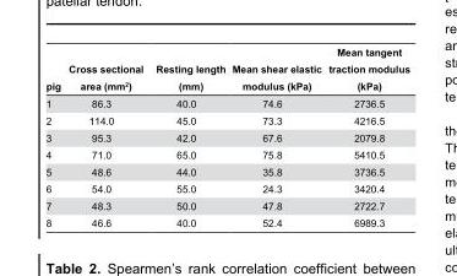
<table><thead><tr><td>pig</td><td>Cross sectional area (mm<sup>2</sup>)</td><td>Resting length (mm)</td><td>Mean shear elastic modulus (kPa)</td><td>Mean tangent traction modulus (kPa)</td></tr></thead><tbody><tr><td>1</td><td>86.3</td><td>40.0</td><td>74.6</td><td>2736.5</td></tr><tr><td>2</td><td>114.0</td><td>45.0</td><td>73.3</td><td>4216.5</td></tr><tr><td>3</td><td>95.3</td><td>42.0</td><td>67.6</td><td>2079.8</td></tr><tr><td>4</td><td>71.0</td><td>65.0</td><td>75.8</td><td>5410.5</td></tr><tr><td>5</td><td>48.6</td><td>44.0</td><td>35.8</td><td>3736.5</td></tr><tr><td>6</td><td>54.0</td><td>55.0</td><td>24.3</td><td>3420.4</td></tr><tr><td>7</td><td>48.3</td><td>50.0</td><td>47.8</td><td>2722.7</td></tr><tr><td>8</td><td>46.6</td><td>40.0</td><td>52.4</td><td>6989.3</td></tr></tbody></table>